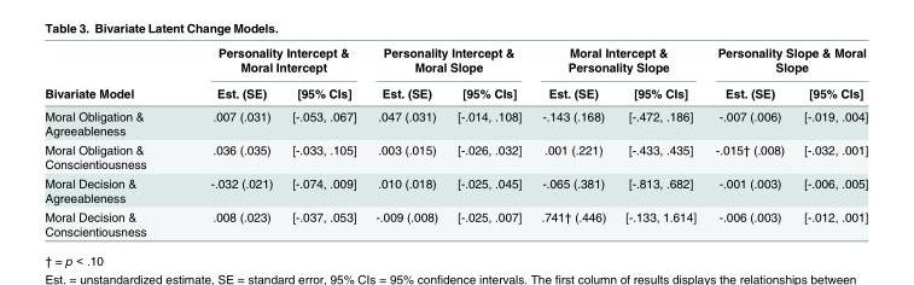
<table><thead><tr><td rowspan="2">Bivariate Model</td><td colspan="2">Personality Intercept &amp; Moral Intercept</td><td colspan="2">Personality Intercept &amp; Moral Slope</td><td colspan="2">Moral Intercept &amp; Personality Slope</td><td colspan="2">Personality Slope &amp; Moral Slope</td></tr><tr><td>Est. (SE)</td><td>[95% CIs]</td><td>Est. (SE)</td><td>[95% CIs]</td><td>Est. (SE)</td><td>[95% CIs]</td><td>Est. (SE)</td><td>[95% CIs]</td></tr></thead><tbody><tr><td>Moral Obligation &amp; Agreeableness</td><td>.007 (.031)</td><td>[-.053, .067]</td><td>.047 (.031)</td><td>[-.014, .108]</td><td>-.143 (.168)</td><td>[-.472, .186]</td><td>-.007 (.006)</td><td>[-.019, .004]</td></tr><tr><td>Moral Obligation &amp; Conscientiousness</td><td>.036 (.035)</td><td>[-.033, .105]</td><td>.003 (.015)</td><td>[-.026, .032]</td><td>.001 (.221)</td><td>[-.433, .435]</td><td>-.015† (.008)</td><td>[-.032, .001]</td></tr><tr><td>Moral Decision &amp; Agreeableness</td><td>-.032 (.021)</td><td>[-.074, .009]</td><td>.010 (.018)</td><td>[-.025, .045]</td><td>-.065 (.381)</td><td>[-.813, .682]</td><td>-.001 (.003)</td><td>[-.006, .005]</td></tr><tr><td>Moral Decision &amp; Conscientiousness</td><td>.008 (.023)</td><td>[-.037, .053]</td><td>-.009 (.008)</td><td>[-.025, .007]</td><td>.741† (.446)</td><td>[-.133, 1.614]</td><td>-.006 (.003)</td><td>[-.012, .001]</td></tr></tbody></table>